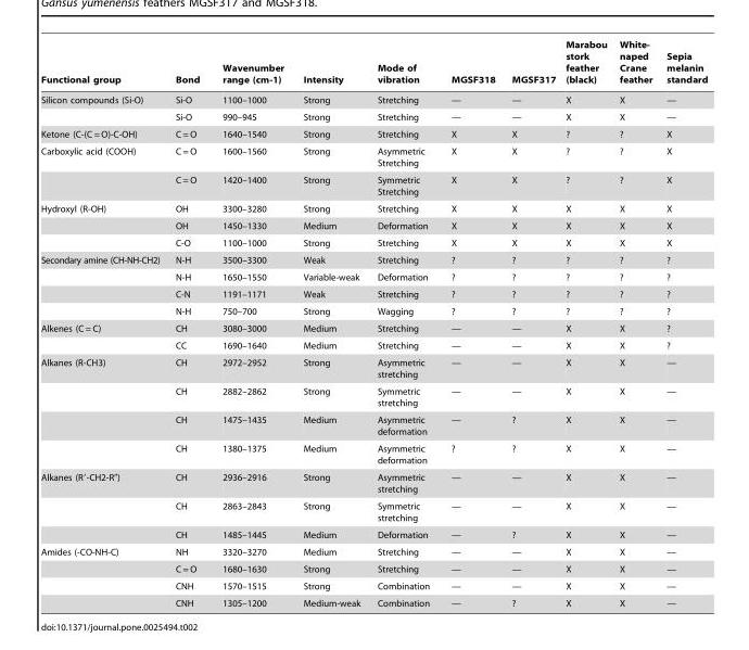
<table><thead><tr><td>Functional group</td><td>Bond</td><td>Wavenumber range (cm-1)</td><td>Intensity</td><td>Mode of vibration</td><td>MGSF318</td><td>MGSF317</td><td>Marabou stork feather (black)</td><td>White- naped Crane feather</td><td>Sepia melanin standard</td></tr></thead><tbody><tr><td rowspan="2">Silicon compounds (Si-O)</td><td>Si-O</td><td>1100–1000</td><td>Strong</td><td>Stretching</td><td>—</td><td>—</td><td>X</td><td>X</td><td>—</td></tr><tr><td>Si-O</td><td>990–945</td><td>Strong</td><td>Stretching</td><td>—</td><td>—</td><td>X</td><td>X</td><td>—</td></tr><tr><td>Ketone (C-(C = O)-C-OH)</td><td>C = O</td><td>1640–1540</td><td>Strong</td><td>Stretching</td><td>X</td><td>X</td><td>?</td><td>?</td><td>X</td></tr><tr><td rowspan="2">Carboxylic acid (COOH)</td><td>C = O</td><td>1600–1560</td><td>Strong</td><td>Asymmetric Stretching</td><td>X</td><td>X</td><td>?</td><td>?</td><td>X</td></tr><tr><td>C = O</td><td>1420–1400</td><td>Strong</td><td>Symmetric Stretching</td><td>X</td><td>X</td><td>?</td><td>?</td><td>X</td></tr><tr><td rowspan="3">Hydroxyl (R-OH)</td><td>OH</td><td>3300–3280</td><td>Strong</td><td>Stretching</td><td>X</td><td>X</td><td>X</td><td>X</td><td>X</td></tr><tr><td>OH</td><td>1450–1330</td><td>Medium</td><td>Deformation</td><td>X</td><td>X</td><td>X</td><td>X</td><td>X</td></tr><tr><td>C-O</td><td>1100–1000</td><td>Strong</td><td>Stretching</td><td>X</td><td>X</td><td>X</td><td>X</td><td>X</td></tr><tr><td rowspan="4">Secondary amine (CH-NH-CH2)</td><td>N-H</td><td>3500–3300</td><td>Weak</td><td>Stretching</td><td>?</td><td>?</td><td>?</td><td>?</td><td>?</td></tr><tr><td>N-H</td><td>1650–1550</td><td>Variable-weak</td><td>Deformation</td><td>?</td><td>?</td><td>?</td><td>?</td><td>?</td></tr><tr><td>C-N</td><td>1191–1171</td><td>Weak</td><td>Stretching</td><td>?</td><td>?</td><td>?</td><td>?</td><td>?</td></tr><tr><td>N-H</td><td>750–700</td><td>Strong</td><td>Wagging</td><td>?</td><td>?</td><td>?</td><td>?</td><td>?</td></tr><tr><td rowspan="2">Alkenes (C = C)</td><td>CH</td><td>3080–3000</td><td>Medium</td><td>Stretching</td><td>—</td><td>—</td><td>X</td><td>X</td><td>?</td></tr><tr><td>CC</td><td>1690–1640</td><td>Medium</td><td>Stretching</td><td>—</td><td>—</td><td>X</td><td>X</td><td>?</td></tr><tr><td rowspan="4">Alkanes (R-CH3)</td><td>CH</td><td>2972–2952</td><td>Strong</td><td>Asymmetric stretching</td><td>—</td><td>—</td><td>X</td><td>X</td><td>—</td></tr><tr><td>CH</td><td>2882–2862</td><td>Strong</td><td>Symmetric stretching</td><td>—</td><td>—</td><td>X</td><td>X</td><td>—</td></tr><tr><td>CH</td><td>1475–1435</td><td>Medium</td><td>Asymmetric deformation</td><td>—</td><td>?</td><td>X</td><td>X</td><td>—</td></tr><tr><td>CH</td><td>1380–1375</td><td>Medium</td><td>Asymmetric deformation</td><td>?</td><td>?</td><td>X</td><td>X</td><td>—</td></tr><tr><td rowspan="3">Alkanes (R′-CH2-R″)</td><td>CH</td><td>2936–2916</td><td>Strong</td><td>Asymmetric stretching</td><td>—</td><td>—</td><td>X</td><td>X</td><td>—</td></tr><tr><td>CH</td><td>2863–2843</td><td>Strong</td><td>Symmetric stretching</td><td>—</td><td>—</td><td>X</td><td>X</td><td>—</td></tr><tr><td>CH</td><td>1485–1445</td><td>Medium</td><td>Deformation</td><td>—</td><td>?</td><td>X</td><td>X</td><td>—</td></tr><tr><td rowspan="4">Amides (-CO-NH-C)</td><td>NH</td><td>3320–3270</td><td>Medium</td><td>Stretching</td><td>—</td><td>—</td><td>X</td><td>X</td><td>—</td></tr><tr><td>C = O</td><td>1680–1630</td><td>Strong</td><td>Stretching</td><td>—</td><td>—</td><td>X</td><td>X</td><td>—</td></tr><tr><td>CNH</td><td>1570–1515</td><td>Strong</td><td>Combination</td><td>—</td><td>—</td><td>X</td><td>X</td><td>—</td></tr><tr><td>CNH</td><td>1305–1200</td><td>Medium-weak</td><td>Combination</td><td>—</td><td>?</td><td>X</td><td>X</td><td>—</td></tr></tbody></table>